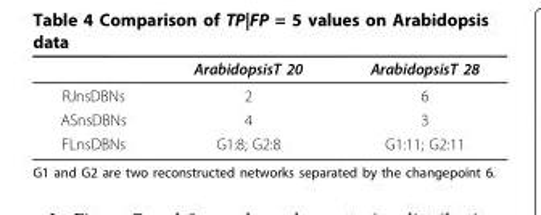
<table><thead><tr><td></td><td>ArabidopsisT 20</td><td>ArabidopsisT 28</td></tr></thead><tbody><tr><td>RJnsDBNs</td><td>2</td><td>6</td></tr><tr><td>ASnsDBNs</td><td>4</td><td>3</td></tr><tr><td>FLnsDBNs</td><td>G1:8; G2:8</td><td>G1:11; G2:11</td></tr></tbody></table>